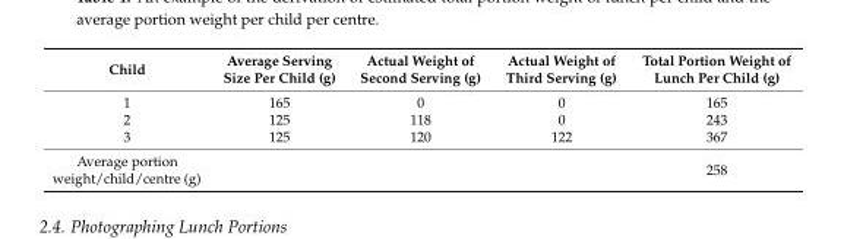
<table><thead><tr><td>Child</td><td>Average Serving Size Per Child (g)</td><td>Actual Weight of Second Serving (g)</td><td>Actual Weight of Third Serving (g)</td><td>Total Portion Weight of Lunch Per Child (g)</td></tr></thead><tbody><tr><td>1</td><td>165</td><td>0</td><td>0</td><td>165</td></tr><tr><td>2</td><td>125</td><td>118</td><td>0</td><td>243</td></tr><tr><td>3</td><td>125</td><td>120</td><td>122</td><td>367</td></tr><tr><td>Average portion weight/child/centre (g)</td><td></td><td></td><td></td><td>258</td></tr></tbody></table>